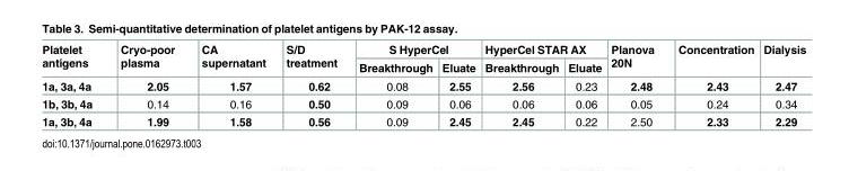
<table><thead><tr><td rowspan="2">Platelet antigens</td><td rowspan="2">Cryo-poor plasma</td><td rowspan="2">CA supernatant</td><td rowspan="2">S/D treatment</td><td colspan="2">S HyperCel</td><td colspan="2">HyperCel STAR AX</td><td rowspan="2">Planova 20N</td><td rowspan="2">Concentration</td><td rowspan="2">Dialysis</td></tr><tr><td>Breakthrough</td><td>Eluate</td><td>Breakthrough</td><td>Eluate</td></tr></thead><tbody><tr><td>1a, 3a, 4a</td><td>2.05</td><td>1.57</td><td>0.62</td><td>0.08</td><td>2.55</td><td>2.56</td><td>0.23</td><td>2.48</td><td>2.43</td><td>2.47</td></tr><tr><td>1b, 3b, 4a</td><td>0.14</td><td>0.16</td><td>0.50</td><td>0.09</td><td>0.06</td><td>0.06</td><td>0.06</td><td>0.05</td><td>0.24</td><td>0.34</td></tr><tr><td>1a, 3b, 4a</td><td>1.99</td><td>1.58</td><td>0.56</td><td>0.09</td><td>2.45</td><td>2.45</td><td>0.22</td><td>2.50</td><td>2.33</td><td>2.29</td></tr></tbody></table>